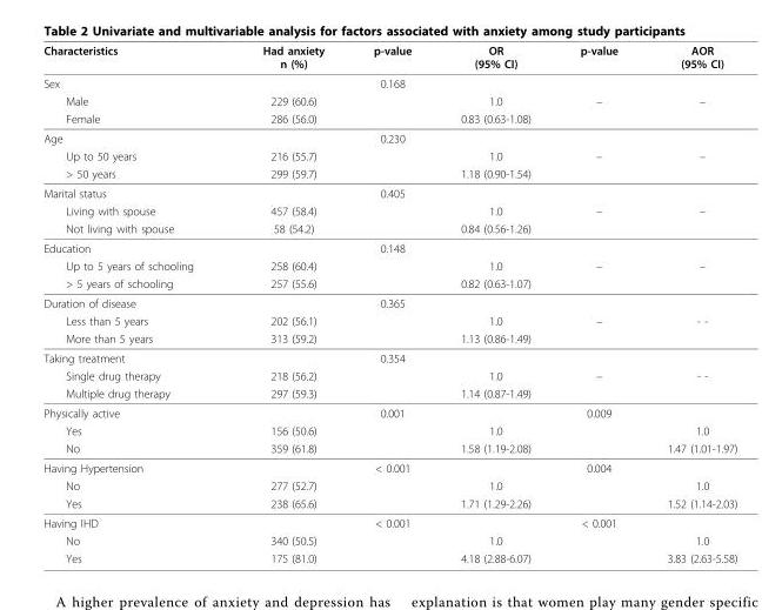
<table><thead><tr><td>Characteristics</td><td>Had anxiety n (%)</td><td>p-value</td><td>OR (95% CI)</td><td>p-value</td><td>AOR (95% CI)</td></tr></thead><tbody><tr><td>Sex</td><td></td><td>0.168</td><td></td><td></td><td></td></tr><tr><td>Male</td><td>229 (60.6)</td><td></td><td>1.0</td><td>–</td><td>–</td></tr><tr><td>Female</td><td>286 (56.0)</td><td></td><td>0.83 (0.63-1.08)</td><td></td><td></td></tr><tr><td>Age</td><td></td><td>0.230</td><td></td><td></td><td></td></tr><tr><td>Up to 50 years</td><td>216 (55.7)</td><td></td><td>1.0</td><td>–</td><td>–</td></tr><tr><td>&gt; 50 years</td><td>299 (59.7)</td><td></td><td>1.18 (0.90-1.54)</td><td></td><td></td></tr><tr><td>Marital status</td><td></td><td>0.405</td><td></td><td></td><td></td></tr><tr><td>Living with spouse</td><td>457 (58.4)</td><td></td><td>1.0</td><td>–</td><td>–</td></tr><tr><td>Not living with spouse</td><td>58 (54.2)</td><td></td><td>0.84 (0.56-1.26)</td><td></td><td></td></tr><tr><td>Education</td><td></td><td>0.148</td><td></td><td></td><td></td></tr><tr><td>Up to 5 years of schooling</td><td>258 (60.4)</td><td></td><td>1.0</td><td>–</td><td>–</td></tr><tr><td>&gt; 5 years of schooling</td><td>257 (55.6)</td><td></td><td>0.82 (0.63-1.07)</td><td></td><td></td></tr><tr><td>Duration of disease</td><td></td><td>0.365</td><td></td><td></td><td></td></tr><tr><td>Less than 5 years</td><td>202 (56.1)</td><td></td><td>1.0</td><td>–</td><td>- -</td></tr><tr><td>More than 5 years</td><td>313 (59.2)</td><td></td><td>1.13 (0.86-1.49)</td><td></td><td></td></tr><tr><td>Taking treatment</td><td></td><td>0.354</td><td></td><td></td><td></td></tr><tr><td>Single drug therapy</td><td>218 (56.2)</td><td></td><td>1.0</td><td>–</td><td>- -</td></tr><tr><td>Multiple drug therapy</td><td>297 (59.3)</td><td></td><td>1.14 (0.87-1.49)</td><td></td><td></td></tr><tr><td>Physically active</td><td></td><td>0.001</td><td></td><td>0.009</td><td></td></tr><tr><td>Yes</td><td>156 (50.6)</td><td></td><td>1.0</td><td></td><td>1.0</td></tr><tr><td>No</td><td>359 (61.8)</td><td></td><td>1.58 (1.19-2.08)</td><td></td><td>1.47 (1.01-1.97)</td></tr><tr><td>Having Hypertension</td><td></td><td>&lt; 0.001</td><td></td><td>0.004</td><td></td></tr><tr><td>No</td><td>277 (52.7)</td><td></td><td>1.0</td><td></td><td>1.0</td></tr><tr><td>Yes</td><td>238 (65.6)</td><td></td><td>1.71 (1.29-2.26)</td><td></td><td>1.52 (1.14-2.03)</td></tr><tr><td>Having IHD</td><td></td><td>&lt; 0.001</td><td></td><td>&lt; 0.001</td><td></td></tr><tr><td>No</td><td>340 (50.5)</td><td></td><td>1.0</td><td></td><td>1.0</td></tr><tr><td>Yes</td><td>175 (81.0)</td><td></td><td>4.18 (2.88-6.07)</td><td></td><td>3.83 (2.63-5.58)</td></tr></tbody></table>